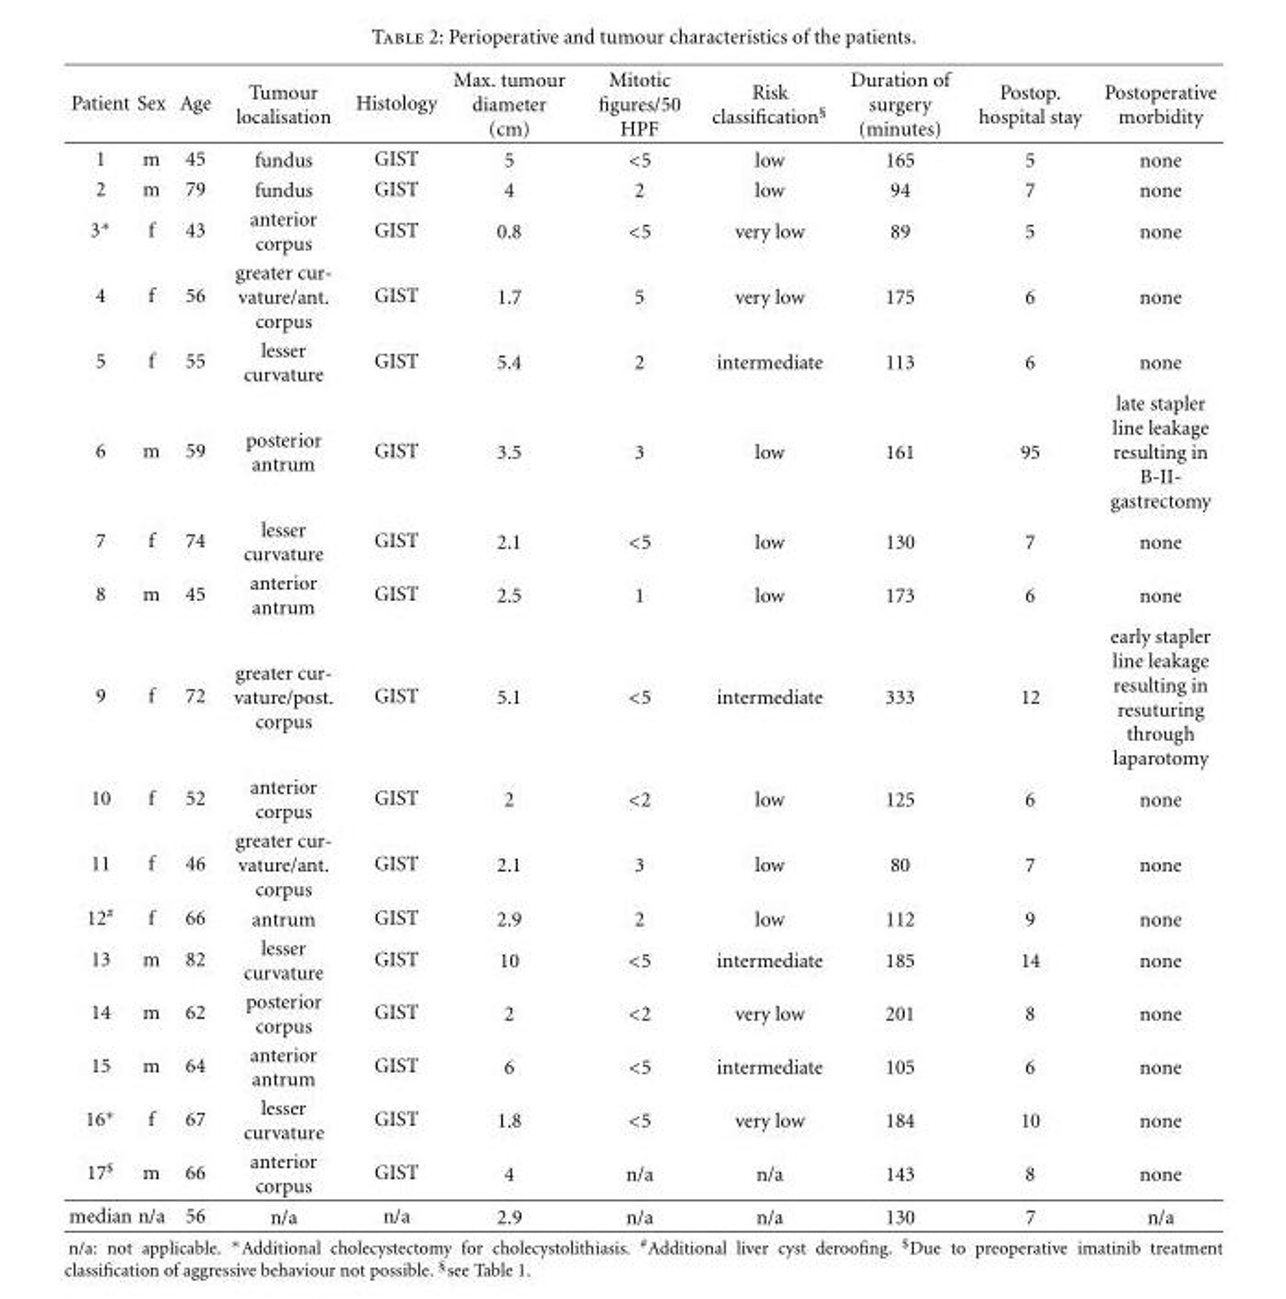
<table><thead><tr><td>Patient</td><td>Sex</td><td>Age</td><td>Tumour localisation</td><td>Histology</td><td>Max. tumour diameter (cm)</td><td>Mitotic figures/50 HPF</td><td>Risk classification<sup>§</sup></td><td>Duration of surgery (minutes)</td><td>Postop. hospital stay</td><td>Postoperative morbidity</td></tr></thead><tbody><tr><td>1</td><td>m</td><td>45</td><td>fundus</td><td>GIST</td><td>5</td><td>&lt;5</td><td>low</td><td>165</td><td>5</td><td>none</td></tr><tr><td>2</td><td>m</td><td>79</td><td>fundus</td><td>GIST</td><td>4</td><td>2</td><td>low</td><td>94</td><td>7</td><td>none</td></tr><tr><td>3∗</td><td>f</td><td>43</td><td>anterior corpus</td><td>GIST</td><td>0.8</td><td>&lt;5</td><td>very low</td><td>89</td><td>5</td><td>none</td></tr><tr><td>4</td><td>f</td><td>56</td><td>greater cur- vature/ant. corpus</td><td>GIST</td><td>1.7</td><td>5</td><td>very low</td><td>175</td><td>6</td><td>none</td></tr><tr><td>5</td><td>f</td><td>55</td><td>lesser curvature</td><td>GIST</td><td>5.4</td><td>2</td><td>intermediate</td><td>113</td><td>6</td><td>none</td></tr><tr><td>6</td><td>m</td><td>59</td><td>posterior antrum</td><td>GIST</td><td>3.5</td><td>3</td><td>low</td><td>161</td><td>95</td><td>late stapler line leakage resulting in B-II- gastrectomy</td></tr><tr><td>7</td><td>f</td><td>74</td><td>lesser curvature</td><td>GIST</td><td>2.1</td><td>&lt;5</td><td>low</td><td>130</td><td>7</td><td>none</td></tr><tr><td>8</td><td>m</td><td>45</td><td>anterior antrum</td><td>GIST</td><td>2.5</td><td>1</td><td>low</td><td>173</td><td>6</td><td>none</td></tr><tr><td>9</td><td>f</td><td>72</td><td>greater cur- vature/post. corpus</td><td>GIST</td><td>5.1</td><td>&lt;5</td><td>intermediate</td><td>333</td><td>12</td><td>early stapler line leakage resulting in resuturing through laparotomy</td></tr><tr><td>10</td><td>f</td><td>52</td><td>anterior corpus</td><td>GIST</td><td>2</td><td>&lt;2</td><td>low</td><td>125</td><td>6</td><td>none</td></tr><tr><td>11</td><td>f</td><td>46</td><td>greater cur- vature/ant. corpus</td><td>GIST</td><td>2.1</td><td>3</td><td>low</td><td>80</td><td>7</td><td>none</td></tr><tr><td>12<sup>#</sup></td><td>f</td><td>66</td><td>antrum</td><td>GIST</td><td>2.9</td><td>2</td><td>low</td><td>112</td><td>9</td><td>none</td></tr><tr><td>13</td><td>m</td><td>82</td><td>lesser curvature</td><td>GIST</td><td>10</td><td>&lt;5</td><td>intermediate</td><td>185</td><td>14</td><td>none</td></tr><tr><td>14</td><td>m</td><td>62</td><td>posterior corpus</td><td>GIST</td><td>2</td><td>&lt;2</td><td>very low</td><td>201</td><td>8</td><td>none</td></tr><tr><td>15</td><td>m</td><td>64</td><td>anterior antrum</td><td>GIST</td><td>6</td><td>&lt;5</td><td>intermediate</td><td>105</td><td>6</td><td>none</td></tr><tr><td>16∗</td><td>f</td><td>67</td><td>lesser curvature</td><td>GIST</td><td>1.8</td><td>&lt;5</td><td>very low</td><td>184</td><td>10</td><td>none</td></tr><tr><td>17<sup>$</sup></td><td>m</td><td>66</td><td>anterior corpus</td><td>GIST</td><td>4</td><td>n/a</td><td>n/a</td><td>143</td><td>8</td><td>none</td></tr><tr><td>median</td><td>n/a</td><td>56</td><td>n/a</td><td>n/a</td><td>2.9</td><td>n/a</td><td>n/a</td><td>130</td><td>7</td><td>n/a</td></tr></tbody></table>